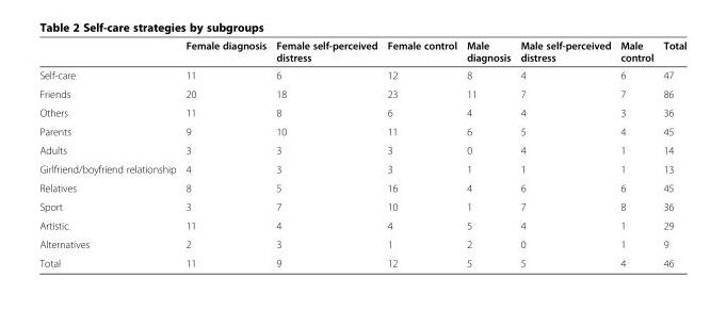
<table><thead><tr><td></td><td>Female diagnosis</td><td>Female self-perceived distress</td><td>Female control</td><td>Male diagnosis</td><td>Male self-perceived distress</td><td>Male control</td><td>Total</td></tr></thead><tbody><tr><td>Self-care</td><td>11</td><td>6</td><td>12</td><td>8</td><td>4</td><td>6</td><td>47</td></tr><tr><td>Friends</td><td>20</td><td>18</td><td>23</td><td>11</td><td>7</td><td>7</td><td>86</td></tr><tr><td>Others</td><td>11</td><td>8</td><td>6</td><td>4</td><td>4</td><td>3</td><td>36</td></tr><tr><td>Parents</td><td>9</td><td>10</td><td>11</td><td>6</td><td>5</td><td>4</td><td>45</td></tr><tr><td>Adults</td><td>3</td><td>3</td><td>3</td><td>0</td><td>4</td><td>1</td><td>14</td></tr><tr><td>Girlfriend/boyfriend relationship</td><td>4</td><td>3</td><td>3</td><td>1</td><td>1</td><td>1</td><td>13</td></tr><tr><td>Relatives</td><td>8</td><td>5</td><td>16</td><td>4</td><td>6</td><td>6</td><td>45</td></tr><tr><td>Sport</td><td>3</td><td>7</td><td>10</td><td>1</td><td>7</td><td>8</td><td>36</td></tr><tr><td>Artistic</td><td>11</td><td>4</td><td>4</td><td>5</td><td>4</td><td>1</td><td>29</td></tr><tr><td>Alternatives</td><td>2</td><td>3</td><td>1</td><td>2</td><td>0</td><td>1</td><td>9</td></tr><tr><td>Total</td><td>11</td><td>9</td><td>12</td><td>5</td><td>5</td><td>4</td><td>46</td></tr></tbody></table>